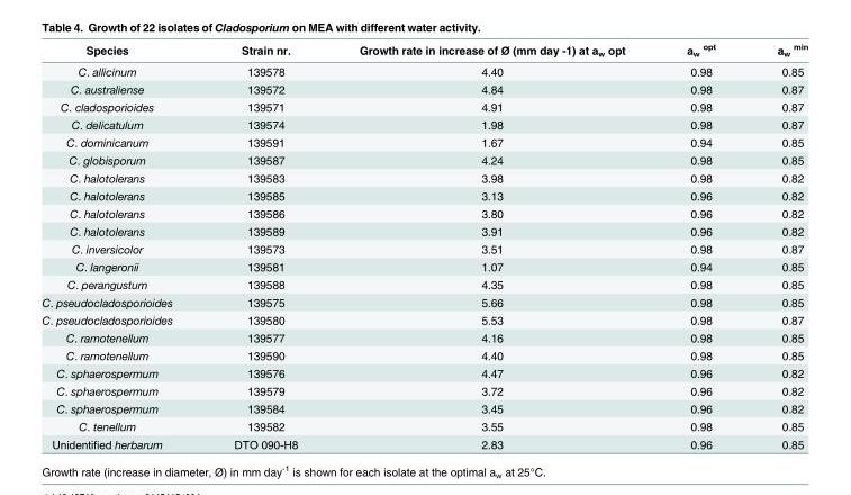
<table><thead><tr><td>Species</td><td>Strain nr.</td><td>Growth rate in increase of Ø (mm day -1) at a<sub>w</sub> opt</td><td>a<sub>w</sub> <sup>opt</sup></td><td>a<sub>w</sub> <sup>min</sup></td></tr></thead><tbody><tr><td>C. allicinum</td><td>139578</td><td>4.40</td><td>0.98</td><td>0.85</td></tr><tr><td>C. australiense</td><td>139572</td><td>4.84</td><td>0.98</td><td>0.87</td></tr><tr><td>C. cladosporioides</td><td>139571</td><td>4.91</td><td>0.98</td><td>0.87</td></tr><tr><td>C. delicatulum</td><td>139574</td><td>1.98</td><td>0.98</td><td>0.87</td></tr><tr><td>C. dominicanum</td><td>139591</td><td>1.67</td><td>0.94</td><td>0.85</td></tr><tr><td>C. globisporum</td><td>139587</td><td>4.24</td><td>0.98</td><td>0.85</td></tr><tr><td>C. halotolerans</td><td>139583</td><td>3.98</td><td>0.98</td><td>0.82</td></tr><tr><td>C. halotolerans</td><td>139585</td><td>3.13</td><td>0.96</td><td>0.82</td></tr><tr><td>C. halotolerans</td><td>139586</td><td>3.80</td><td>0.96</td><td>0.82</td></tr><tr><td>C. halotolerans</td><td>139589</td><td>3.91</td><td>0.96</td><td>0.82</td></tr><tr><td>C. inversicolor</td><td>139573</td><td>3.51</td><td>0.98</td><td>0.87</td></tr><tr><td>C. langeronii</td><td>139581</td><td>1.07</td><td>0.94</td><td>0.85</td></tr><tr><td>C. perangustum</td><td>139588</td><td>4.35</td><td>0.98</td><td>0.85</td></tr><tr><td>C. pseudocladosporioides</td><td>139575</td><td>5.66</td><td>0.98</td><td>0.85</td></tr><tr><td>C. pseudocladosporioides</td><td>139580</td><td>5.53</td><td>0.98</td><td>0.87</td></tr><tr><td>C. ramotenellum</td><td>139577</td><td>4.16</td><td>0.98</td><td>0.85</td></tr><tr><td>C. ramotenellum</td><td>139590</td><td>4.40</td><td>0.98</td><td>0.85</td></tr><tr><td>C. sphaerospermum</td><td>139576</td><td>4.47</td><td>0.96</td><td>0.82</td></tr><tr><td>C. sphaerospermum</td><td>139579</td><td>3.72</td><td>0.96</td><td>0.82</td></tr><tr><td>C. sphaerospermum</td><td>139584</td><td>3.45</td><td>0.96</td><td>0.82</td></tr><tr><td>C. tenellum</td><td>139582</td><td>3.55</td><td>0.98</td><td>0.85</td></tr><tr><td>Unidentified herbarum</td><td>DTO 090-H8</td><td>2.83</td><td>0.96</td><td>0.85</td></tr></tbody></table>